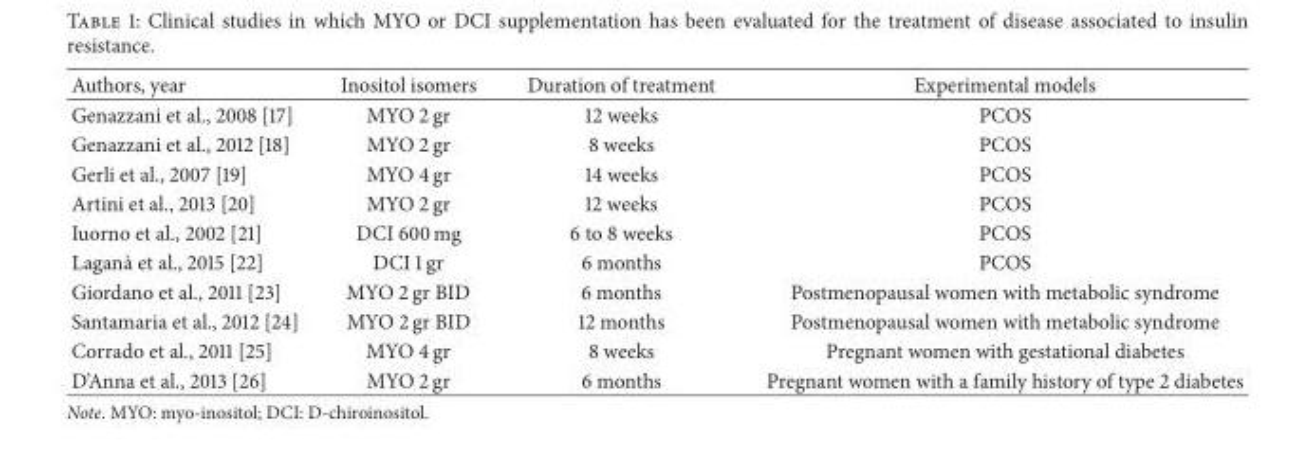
<table><thead><tr><td>Authors, year</td><td>Inositol isomers</td><td>Duration of treatment</td><td>Experimental models</td></tr></thead><tbody><tr><td>Genazzani et al., 2008 [17]</td><td>MYO 2 gr</td><td>12 weeks</td><td>PCOS</td></tr><tr><td>Genazzani et al., 2012 [18]</td><td>MYO 2 gr</td><td>8 weeks</td><td>PCOS</td></tr><tr><td>Gerli et al., 2007 [19]</td><td>MYO 4 gr</td><td>14 weeks</td><td>PCOS</td></tr><tr><td>Artini et al., 2013 [20]</td><td>MYO 2 gr</td><td>12 weeks</td><td>PCOS</td></tr><tr><td>Iuorno et al., 2002 [21]</td><td>DCI 600 mg</td><td>6 to 8 weeks</td><td>PCOS</td></tr><tr><td>Lagan`a et al., 2015 [22]</td><td>DCI 1 gr</td><td>6 months</td><td>PCOS</td></tr><tr><td>Giordano et al., 2011 [23]</td><td>MYO 2 gr BID</td><td>6 months</td><td>Postmenopausal women with metabolic syndrome</td></tr><tr><td>Santamaria et al., 2012 [24]</td><td>MYO 2 gr BID</td><td>12 months</td><td>Postmenopausal women with metabolic syndrome</td></tr><tr><td>Corrado et al., 2011 [25]</td><td>MYO 4 gr</td><td>8 weeks</td><td>Pregnant women with gestational diabetes</td></tr><tr><td>D’Anna et al., 2013 [26]</td><td>MYO 2 gr</td><td>6 months</td><td>Pregnant women with a family history of type 2 diabetes</td></tr></tbody></table>